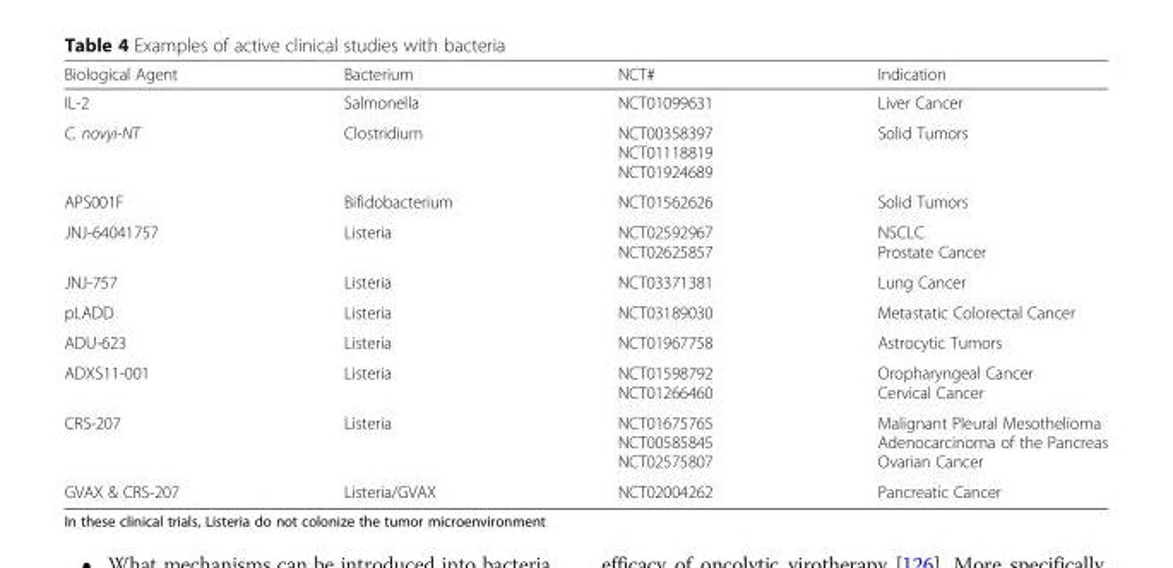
<table><thead><tr><td>Biological Agent</td><td>Bacterium</td><td>NCT#</td><td>Indication</td></tr></thead><tbody><tr><td>IL-2</td><td>Salmonella</td><td>NCT01099631</td><td>Liver Cancer</td></tr><tr><td>C. novyi-NT</td><td>Clostridium</td><td>NCT00358397 NCT01118819 NCT01924689</td><td>Solid Tumors</td></tr><tr><td>APS001F</td><td>Bifidobacterium</td><td>NCT01562626</td><td>Solid Tumors</td></tr><tr><td>JNJ-64041757</td><td>Listeria</td><td>NCT02592967 NCT02625857</td><td>NSCLC Prostate Cancer</td></tr><tr><td>JNJ-757</td><td>Listeria</td><td>NCT03371381</td><td>Lung Cancer</td></tr><tr><td>pLADD</td><td>Listeria</td><td>NCT03189030</td><td>Metastatic Colorectal Cancer</td></tr><tr><td>ADU-623</td><td>Listeria</td><td>NCT01967758</td><td>Astrocytic Tumors</td></tr><tr><td>ADXS11-001</td><td>Listeria</td><td>NCT01598792 NCT01266460</td><td>Oropharyngeal Cancer Cervical Cancer</td></tr><tr><td>CRS-207</td><td>Listeria</td><td>NCT01675765 NCT00585845 NCT02575807</td><td>Malignant Pleural Mesothelioma Adenocarcinoma of the Pancreas Ovarian Cancer</td></tr><tr><td>GVAX &amp; CRS-207</td><td>Listeria/GVAX</td><td>NCT02004262</td><td>Pancreatic Cancer</td></tr></tbody></table>